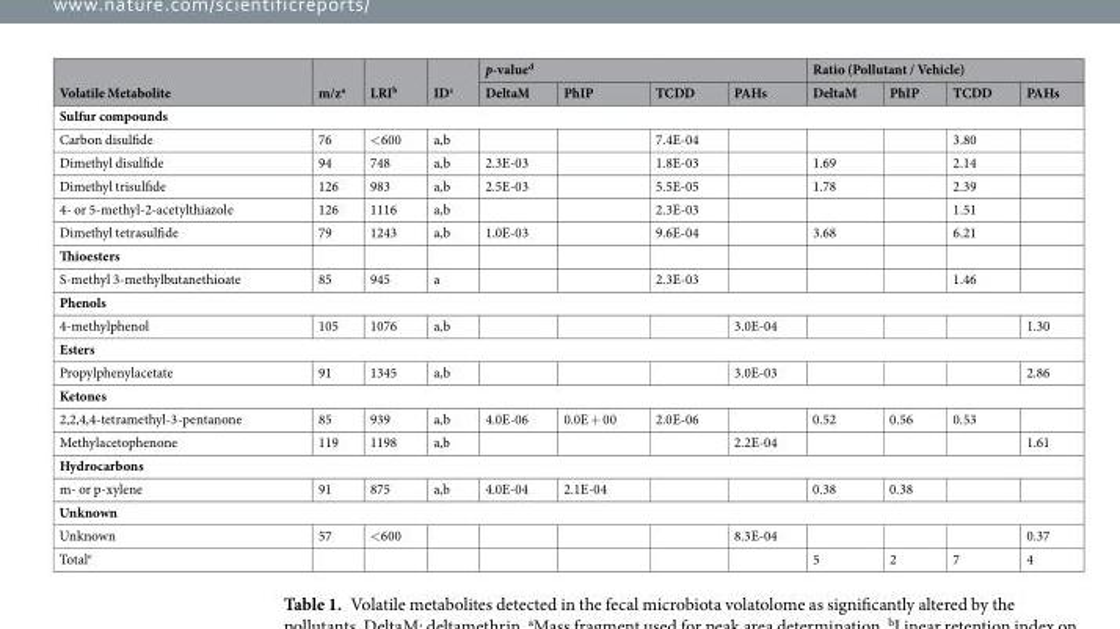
<table><thead><tr><td rowspan="2">Volatile Metabolite</td><td rowspan="2">m/z<sup>a</sup></td><td rowspan="2">LRI<sup>b</sup></td><td rowspan="2">ID<sup>c</sup></td><td colspan="4">p-value<sup>d</sup></td><td colspan="4">Ratio (Pollutant / Vehicle)</td></tr><tr><td>DeltaM</td><td>PhIP</td><td>TCDD</td><td>PAHs</td><td>DeltaM</td><td>PhIP</td><td>TCDD</td><td>PAHs</td></tr></thead><tbody><tr><td colspan="12">Sulfur compounds</td></tr><tr><td>Carbon disulfide</td><td>76</td><td>&lt;600</td><td>a,b</td><td></td><td></td><td>7.4E-04</td><td></td><td></td><td></td><td>3.80</td><td></td></tr><tr><td>Dimethyl disulfide</td><td>94</td><td>748</td><td>a,b</td><td>2.3E-03</td><td></td><td>1.8E-03</td><td></td><td>1.69</td><td></td><td>2.14</td><td></td></tr><tr><td>Dimethyl trisulfide</td><td>126</td><td>983</td><td>a,b</td><td>2.5E-03</td><td></td><td>5.5E-05</td><td></td><td>1.78</td><td></td><td>2.39</td><td></td></tr><tr><td>4- or 5-methyl-2-acetylthiazole</td><td>126</td><td>1116</td><td>a,b</td><td></td><td></td><td>2.3E-03</td><td></td><td></td><td></td><td>1.51</td><td></td></tr><tr><td>Dimethyl tetrasulfide</td><td>79</td><td>1243</td><td>a,b</td><td>1.0E-03</td><td></td><td>9.6E-04</td><td></td><td>3.68</td><td></td><td>6.21</td><td></td></tr><tr><td colspan="12">Thioesters</td></tr><tr><td>S-methyl 3-methylbutanethioate</td><td>85</td><td>945</td><td>a</td><td></td><td></td><td>2.3E-03</td><td></td><td></td><td></td><td>1.46</td><td></td></tr><tr><td colspan="12">Phenols</td></tr><tr><td>4-methylphenol</td><td>105</td><td>1076</td><td>a,b</td><td></td><td></td><td></td><td>3.0E-04</td><td></td><td></td><td></td><td>1.30</td></tr><tr><td colspan="12">Esters</td></tr><tr><td>Propylphenylacetate</td><td>91</td><td>1345</td><td>a,b</td><td></td><td></td><td></td><td>3.0E-03</td><td></td><td></td><td></td><td>2.86</td></tr><tr><td colspan="12">Ketones</td></tr><tr><td>2,2,4,4-tetramethyl-3-pentanone</td><td>85</td><td>939</td><td>a,b</td><td>4.0E-06</td><td>0.0E + 00</td><td>2.0E-06</td><td></td><td>0.52</td><td>0.56</td><td>0.53</td><td></td></tr><tr><td>Methylacetophenone</td><td>119</td><td>1198</td><td>a,b</td><td></td><td></td><td></td><td>2.2E-04</td><td></td><td></td><td></td><td>1.61</td></tr><tr><td colspan="12">Hydrocarbons</td></tr><tr><td>m- or p-xylene</td><td>91</td><td>875</td><td>a,b</td><td>4.0E-04</td><td>2.1E-04</td><td></td><td></td><td>0.38</td><td>0.38</td><td></td><td></td></tr><tr><td colspan="12">Unknown</td></tr><tr><td>Unknown</td><td>57</td><td>&lt;600</td><td></td><td></td><td></td><td></td><td>8.3E-04</td><td></td><td></td><td></td><td>0.37</td></tr><tr><td>Total<sup>e</sup></td><td></td><td></td><td></td><td></td><td></td><td></td><td></td><td>5</td><td>2</td><td>7</td><td>4</td></tr></tbody></table>